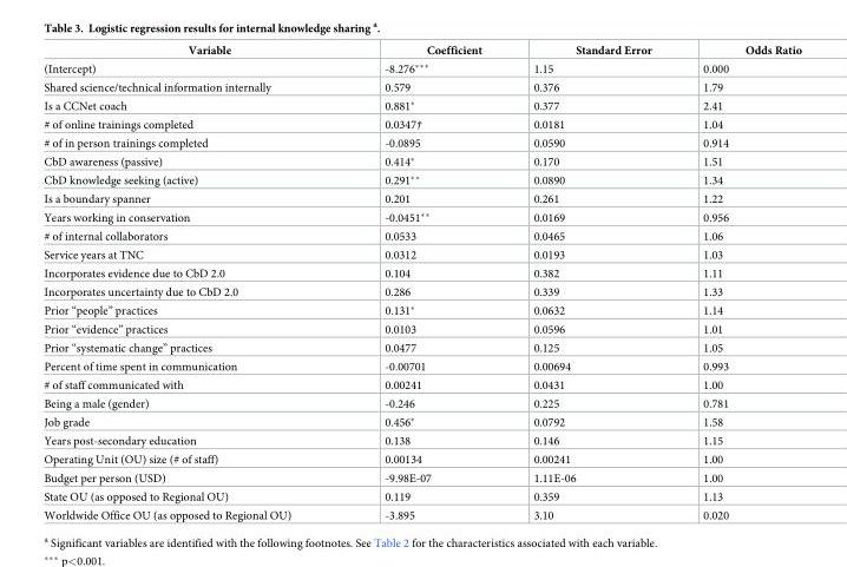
<table><thead><tr><td>Variable</td><td>Coefficient</td><td>Standard Error</td><td>Odds Ratio</td></tr></thead><tbody><tr><td>(Intercept)</td><td>-8.276***</td><td>1.15</td><td>0.000</td></tr><tr><td>Shared science/technical information internally</td><td>0.579</td><td>0.376</td><td>1.79</td></tr><tr><td>Is a CCNet coach</td><td>0.881*</td><td>0.377</td><td>2.41</td></tr><tr><td># of online trainings completed</td><td>0.0347†</td><td>0.0181</td><td>1.04</td></tr><tr><td># of in person trainings completed</td><td>-0.0895</td><td>0.0590</td><td>0.914</td></tr><tr><td>CbD awareness (passive)</td><td>0.414*</td><td>0.170</td><td>1.51</td></tr><tr><td>CbD knowledge seeking (active)</td><td>0.291**</td><td>0.0890</td><td>1.34</td></tr><tr><td>Is a boundary spanner</td><td>0.201</td><td>0.261</td><td>1.22</td></tr><tr><td>Years working in conservation</td><td>-0.0451**</td><td>0.0169</td><td>0.956</td></tr><tr><td># of internal collaborators</td><td>0.0533</td><td>0.0465</td><td>1.06</td></tr><tr><td>Service years at TNC</td><td>0.0312</td><td>0.0193</td><td>1.03</td></tr><tr><td>Incorporates evidence due to CbD 2.0</td><td>0.104</td><td>0.382</td><td>1.11</td></tr><tr><td>Incorporates uncertainty due to CbD 2.0</td><td>0.286</td><td>0.339</td><td>1.33</td></tr><tr><td>Prior “people” practices</td><td>0.131*</td><td>0.0632</td><td>1.14</td></tr><tr><td>Prior “evidence” practices</td><td>0.0103</td><td>0.0596</td><td>1.01</td></tr><tr><td>Prior “systematic change” practices</td><td>0.0477</td><td>0.125</td><td>1.05</td></tr><tr><td>Percent of time spent in communication</td><td>-0.00701</td><td>0.00694</td><td>0.993</td></tr><tr><td># of staff communicated with</td><td>0.00241</td><td>0.0431</td><td>1.00</td></tr><tr><td>Being a male (gender)</td><td>-0.246</td><td>0.225</td><td>0.781</td></tr><tr><td>Job grade</td><td>0.456*</td><td>0.0792</td><td>1.58</td></tr><tr><td>Years post-secondary education</td><td>0.138</td><td>0.146</td><td>1.15</td></tr><tr><td>Operating Unit (OU) size (# of staff)</td><td>0.00134</td><td>0.00241</td><td>1.00</td></tr><tr><td>Budget per person (USD)</td><td>-9.98E-07</td><td>1.11E-06</td><td>1.00</td></tr><tr><td>State OU (as opposed to Regional OU)</td><td>0.119</td><td>0.359</td><td>1.13</td></tr><tr><td>Worldwide Office OU (as opposed to Regional OU)</td><td>-3.895</td><td>3.10</td><td>0.020</td></tr></tbody></table>